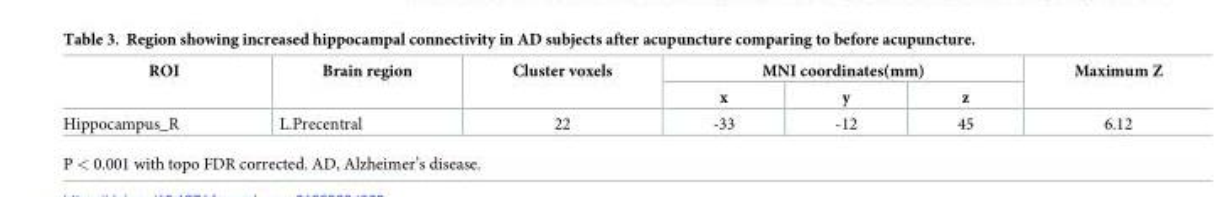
<table><thead><tr><td rowspan="2">ROI</td><td rowspan="2">Brain region</td><td rowspan="2">Cluster voxels</td><td colspan="3">MNI coordinates(mm)</td><td rowspan="2">Maximum Z</td></tr><tr><td>x</td><td>y</td><td>z</td></tr></thead><tbody><tr><td>Hippocampus_R</td><td>L.Precentral</td><td>22</td><td>-33</td><td>-12</td><td>45</td><td>6.12</td></tr></tbody></table>